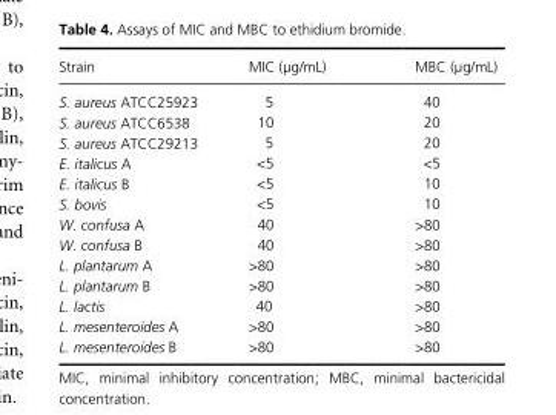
<table><thead><tr><td>Strain</td><td>MIC (μg/mL)</td><td>MBC (μg/mL)</td></tr></thead><tbody><tr><td>S. aureus ATCC25923</td><td>5</td><td>40</td></tr><tr><td>S. aureus ATCC6538</td><td>10</td><td>20</td></tr><tr><td>S. aureus ATCC29213</td><td>5</td><td>20</td></tr><tr><td>E. italicus A</td><td>&lt;5</td><td>&lt;5</td></tr><tr><td>E. italicus B</td><td>&lt;5</td><td>10</td></tr><tr><td>S. bovis</td><td>&lt;5</td><td>10</td></tr><tr><td>W. confusa A</td><td>40</td><td>&gt;80</td></tr><tr><td>W. confusa B</td><td>40</td><td>&gt;80</td></tr><tr><td>L. plantarum A</td><td>&gt;80</td><td>&gt;80</td></tr><tr><td>L. plantarum B</td><td>&gt;80</td><td>&gt;80</td></tr><tr><td>L. lactis</td><td>40</td><td>&gt;80</td></tr><tr><td>L. mesenteroides A</td><td>&gt;80</td><td>&gt;80</td></tr><tr><td>L. mesenteroides B</td><td>&gt;80</td><td>&gt;80</td></tr></tbody></table>